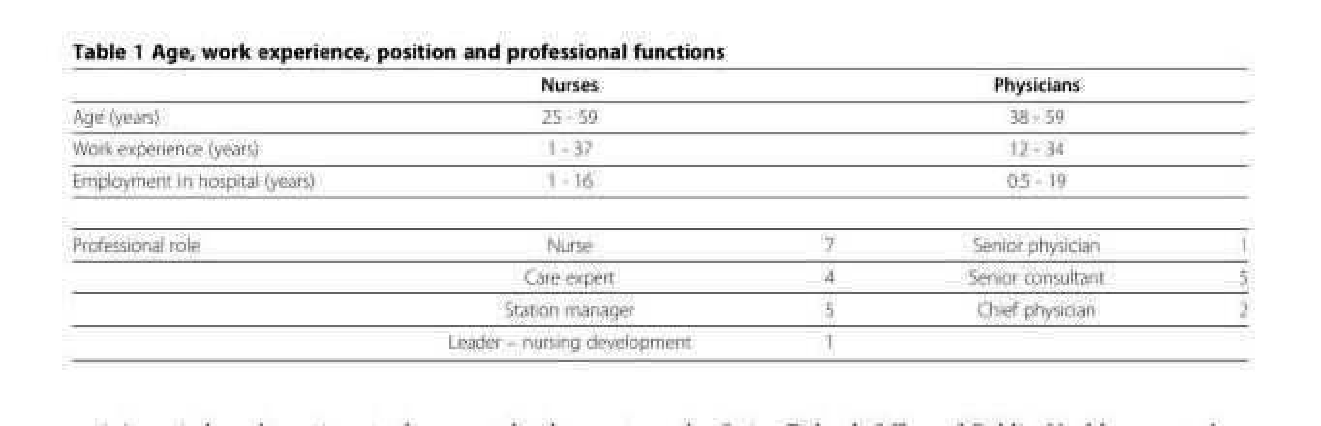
<table><thead><tr><td></td><td>Nurses</td><td colspan="3">Physicians</td></tr></thead><tbody><tr><td>Age (years)</td><td>25 - 59</td><td colspan="3">38 - 59</td></tr><tr><td>Work experience (years)</td><td>1 - 37</td><td colspan="3">12 - 34</td></tr><tr><td>Employment in hospital (years)</td><td>1 - 16</td><td colspan="3">0.5 - 19</td></tr><tr><td rowspan="4">Professional role</td><td>Nurse</td><td>7</td><td>Senior physician</td><td>1</td></tr><tr><td>Care expert</td><td>4</td><td>Senior consultant</td><td>5</td></tr><tr><td>Station manager</td><td>5</td><td>Chief physician</td><td>2</td></tr><tr><td>Leader – nursing development</td><td>1</td><td></td><td></td></tr></tbody></table>